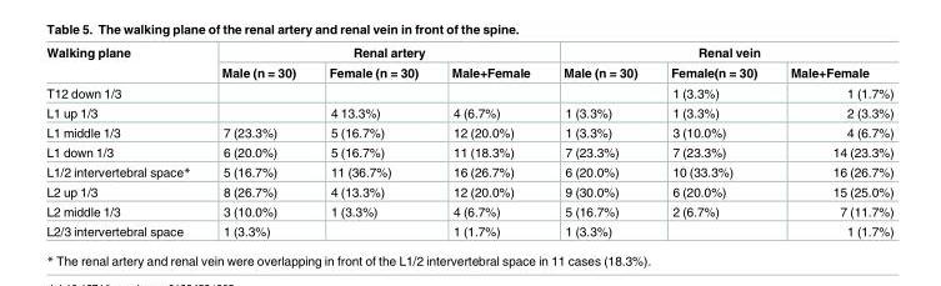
<table><thead><tr><td rowspan="2">Walking plane</td><td colspan="3">Renal artery</td><td colspan="3">Renal vein</td></tr><tr><td>Male (n = 30)</td><td>Female (n = 30)</td><td>Male+Female</td><td>Male (n = 30)</td><td>Female(n = 30)</td><td>Male+Female</td></tr></thead><tbody><tr><td>T12 down 1/3</td><td></td><td></td><td></td><td></td><td>1 (3.3%)</td><td>1 (1.7%)</td></tr><tr><td>L1 up 1/3</td><td></td><td>4 13.3%)</td><td>4 (6.7%)</td><td>1 (3.3%)</td><td>1 (3.3%)</td><td>2 (3.3%)</td></tr><tr><td>L1 middle 1/3</td><td>7 (23.3%)</td><td>5 (16.7%)</td><td>12 (20.0%)</td><td>1 (3.3%)</td><td>3 (10.0%)</td><td>4 (6.7%)</td></tr><tr><td>L1 down 1/3</td><td>6 (20.0%)</td><td>5 (16.7%)</td><td>11 (18.3%)</td><td>7 (23.3%)</td><td>7 (23.3%)</td><td>14 (23.3%)</td></tr><tr><td>L1/2 intervertebral space*</td><td>5 (16.7%)</td><td>11 (36.7%)</td><td>16 (26.7%)</td><td>6 (20.0%)</td><td>10 (33.3%)</td><td>16 (26.7%)</td></tr><tr><td>L2 up 1/3</td><td>8 (26.7%)</td><td>4 (13.3%)</td><td>12 (20.0%)</td><td>9 (30.0%)</td><td>6 (20.0%)</td><td>15 (25.0%)</td></tr><tr><td>L2 middle 1/3</td><td>3 (10.0%)</td><td>1 (3.3%)</td><td>4 (6.7%)</td><td>5 (16.7%)</td><td>2 (6.7%)</td><td>7 (11.7%)</td></tr><tr><td>L2/3 intervertebral space</td><td>1 (3.3%)</td><td></td><td>1 (1.7%)</td><td>1 (3.3%)</td><td></td><td>1 (1.7%)</td></tr></tbody></table>